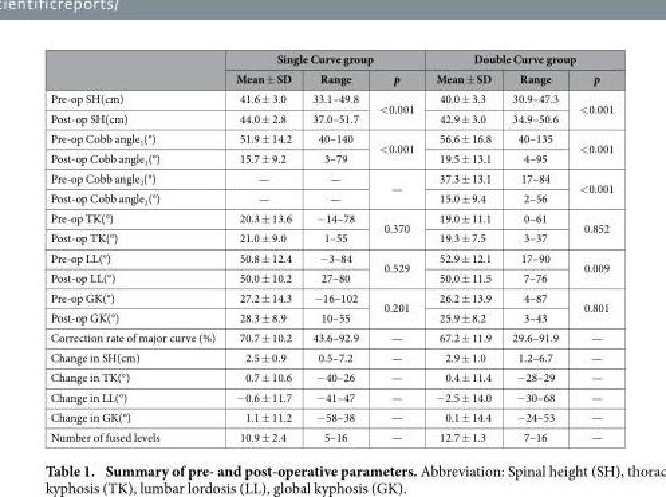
<table><thead><tr><td rowspan="2"></td><td colspan="3">Single Curve group</td><td colspan="3">Double Curve group</td></tr><tr><td>Mean ± SD</td><td>Range</td><td>p</td><td>Mean ± SD</td><td>Range</td><td>p</td></tr></thead><tbody><tr><td>Pre-op SH(cm)</td><td>41.6 ± 3.0</td><td>33.1–49.8</td><td rowspan="2">&lt; 0.001</td><td>40.0 ± 3.3</td><td>30.9–47.3</td><td rowspan="2">&lt; 0.001</td></tr><tr><td>Post-op SH(cm)</td><td>44.0 ± 2.8</td><td>37.0–51.7</td><td>42.9 ± 3.0</td><td>34.9–50.6</td></tr><tr><td>Pre-op Cobb angle<sub>1</sub>(°)</td><td>51.9 ± 14.2</td><td>40–140</td><td rowspan="2">&lt; 0.001</td><td>56.6 ± 16.8</td><td>40–135</td><td rowspan="2">&lt; 0.001</td></tr><tr><td>Post-op Cobb angle<sub>1</sub>(°)</td><td>15.7 ± 9.2</td><td>3–79</td><td>19.5 ± 13.1</td><td>4–95</td></tr><tr><td>Pre-op Cobb angle<sub>2</sub>(°)</td><td>—</td><td>—</td><td rowspan="2">—</td><td>37.3 ± 13.1</td><td>17–84</td><td rowspan="2">&lt; 0.001</td></tr><tr><td>Post-op Cobb angle<sub>2</sub>(°)</td><td>—</td><td>—</td><td>15.0 ± 9.4</td><td>2–56</td></tr><tr><td>Pre-op TK(°)</td><td>20.3 ± 13.6</td><td>− 14–78</td><td rowspan="2">0.370</td><td>19.0 ± 11.1</td><td>0–61</td><td rowspan="2">0.852</td></tr><tr><td>Post-op TK(°)</td><td>21.0 ± 9.0</td><td>1–55</td><td>19.3 ± 7.5</td><td>3–37</td></tr><tr><td>Pre-op LL(°)</td><td>50.8 ± 12.4</td><td>− 3–84</td><td rowspan="2">0.529</td><td>52.9 ± 12.1</td><td>17–90</td><td rowspan="2">0.009</td></tr><tr><td>Post-op LL(°)</td><td>50.0 ± 10.2</td><td>27–80</td><td>50.0 ± 11.5</td><td>7–76</td></tr><tr><td>Pre-op GK(°)</td><td>27.2 ± 14.3</td><td>− 16–102</td><td rowspan="2">0.201</td><td>26.2 ± 13.9</td><td>4–87</td><td rowspan="2">0.801</td></tr><tr><td>Post-op GK(°)</td><td>28.3 ± 8.9</td><td>10–55</td><td>25.9 ± 8.2</td><td>3–43</td></tr><tr><td>Correction rate of major curve (%)</td><td>70.7 ± 10.2</td><td>43.6–92.9</td><td>—</td><td>67.2 ± 11.9</td><td>29.6–91.9</td><td>—</td></tr><tr><td>Change in SH(cm)</td><td>2.5 ± 0.9</td><td>0.5–7.2</td><td>—</td><td>2.9 ± 1.0</td><td>1.2–6.7</td><td>—</td></tr><tr><td>Change in TK(°)</td><td>0.7 ± 10.6</td><td>− 40–26</td><td>—</td><td>0.4 ± 11.4</td><td>− 28–29</td><td>—</td></tr><tr><td>Change in LL(°)</td><td>− 0.6 ± 11.7</td><td>− 41–47</td><td>—</td><td>− 2.5 ± 14.0</td><td>− 30–68</td><td>—</td></tr><tr><td>Change in GK(°)</td><td>1.1 ± 11.2</td><td>− 58–38</td><td>—</td><td>0.1 ± 14.4</td><td>− 24–53</td><td>—</td></tr><tr><td>Number of fused levels</td><td>10.9 ± 2.4</td><td>5–16</td><td>—</td><td>12.7 ± 1.3</td><td>7–16</td><td>—</td></tr></tbody></table>